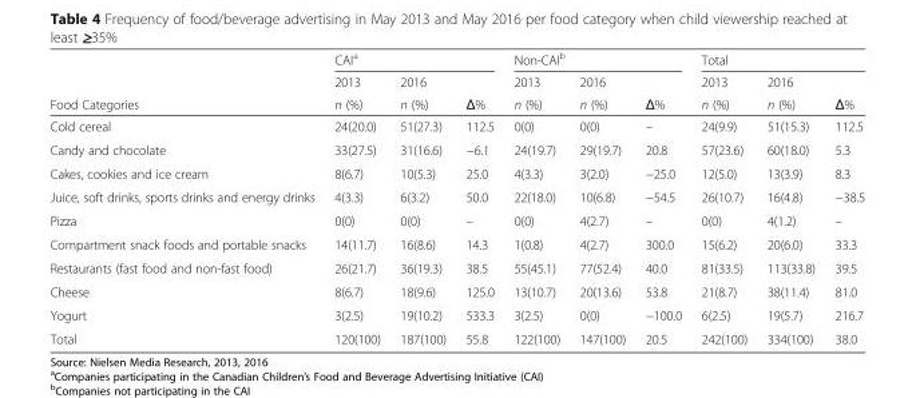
<table><thead><tr><td rowspan="3">Food Categories</td><td colspan="3">CAI<sup>a</sup></td><td colspan="3">Non-CAI<sup>b</sup></td><td colspan="3">Total</td></tr><tr><td rowspan="2">2013 n (%)</td><td rowspan="2">2016 n (%)</td><td rowspan="2">Δ%</td><td rowspan="2">2013 n (%)</td><td rowspan="2">2016 n (%)</td><td rowspan="2">Δ%</td><td rowspan="2">2013 n (%)</td><td rowspan="2">2016 n (%)</td><td rowspan="2">Δ%</td></tr><tr></tr></thead><tbody><tr><td>Cold cereal</td><td>24(20.0)</td><td>51(27.3)</td><td>112.5</td><td>0(0)</td><td>0(0)</td><td>–</td><td>24(9.9)</td><td>51(15.3)</td><td>112.5</td></tr><tr><td>Candy and chocolate</td><td>33(27.5)</td><td>31(16.6)</td><td>−6.1</td><td>24(19.7)</td><td>29(19.7)</td><td>20.8</td><td>57(23.6)</td><td>60(18.0)</td><td>5.3</td></tr><tr><td>Cakes, cookies and ice cream</td><td>8(6.7)</td><td>10(5.3)</td><td>25.0</td><td>4(3.3)</td><td>3(2.0)</td><td>−25.0</td><td>12(5.0)</td><td>13(3.9)</td><td>8.3</td></tr><tr><td>Juice, soft drinks, sports drinks and energy drinks</td><td>4(3.3)</td><td>6(3.2)</td><td>50.0</td><td>22(18.0)</td><td>10(6.8)</td><td>−54.5</td><td>26(10.7)</td><td>16(4.8)</td><td>−38.5</td></tr><tr><td>Pizza</td><td>0(0)</td><td>0(0)</td><td>–</td><td>0(0)</td><td>4(2.7)</td><td>–</td><td>0(0)</td><td>4(1.2)</td><td>–</td></tr><tr><td>Compartment snack foods and portable snacks</td><td>14(11.7)</td><td>16(8.6)</td><td>14.3</td><td>1(0.8)</td><td>4(2.7)</td><td>300.0</td><td>15(6.2)</td><td>20(6.0)</td><td>33.3</td></tr><tr><td>Restaurants (fast food and non-fast food)</td><td>26(21.7)</td><td>36(19.3)</td><td>38.5</td><td>55(45.1)</td><td>77(52.4)</td><td>40.0</td><td>81(33.5)</td><td>113(33.8)</td><td>39.5</td></tr><tr><td>Cheese</td><td>8(6.7)</td><td>18(9.6)</td><td>125.0</td><td>13(10.7)</td><td>20(13.6)</td><td>53.8</td><td>21(8.7)</td><td>38(11.4)</td><td>81.0</td></tr><tr><td>Yogurt</td><td>3(2.5)</td><td>19(10.2)</td><td>533.3</td><td>3(2.5)</td><td>0(0)</td><td>−100.0</td><td>6(2.5)</td><td>19(5.7)</td><td>216.7</td></tr><tr><td>Total</td><td>120(100)</td><td>187(100)</td><td>55.8</td><td>122(100)</td><td>147(100)</td><td>20.5</td><td>242(100)</td><td>334(100)</td><td>38.0</td></tr></tbody></table>